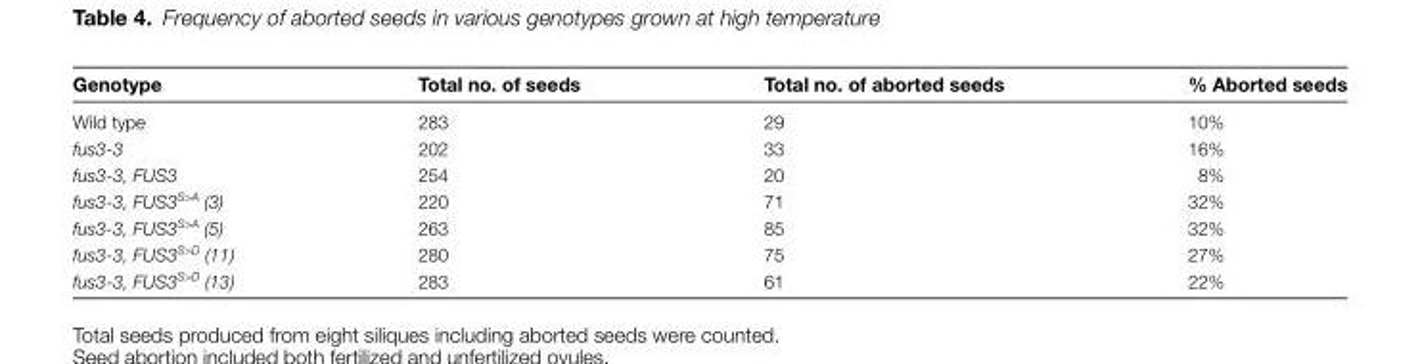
<table><thead><tr><td>Genotype</td><td>Total no. of seeds</td><td>Total no. of aborted seeds</td><td>% Aborted seeds</td></tr></thead><tbody><tr><td>Wild type</td><td>283</td><td>29</td><td>10%</td></tr><tr><td>fus3-3</td><td>202</td><td>33</td><td>16%</td></tr><tr><td>fus3-3, FUS3</td><td>254</td><td>20</td><td>8%</td></tr><tr><td>fus3-3, FUS3<sup>S&gt;A</sup> (3)</td><td>220</td><td>71</td><td>32%</td></tr><tr><td>fus3-3, FUS3<sup>S&gt;A</sup> (5)</td><td>263</td><td>85</td><td>32%</td></tr><tr><td>fus3-3, FUS3<sup>S&gt;D</sup> (11)</td><td>280</td><td>75</td><td>27%</td></tr><tr><td>fus3-3, FUS3<sup>S&gt;D</sup> (13)</td><td>283</td><td>61</td><td>22%</td></tr></tbody></table>